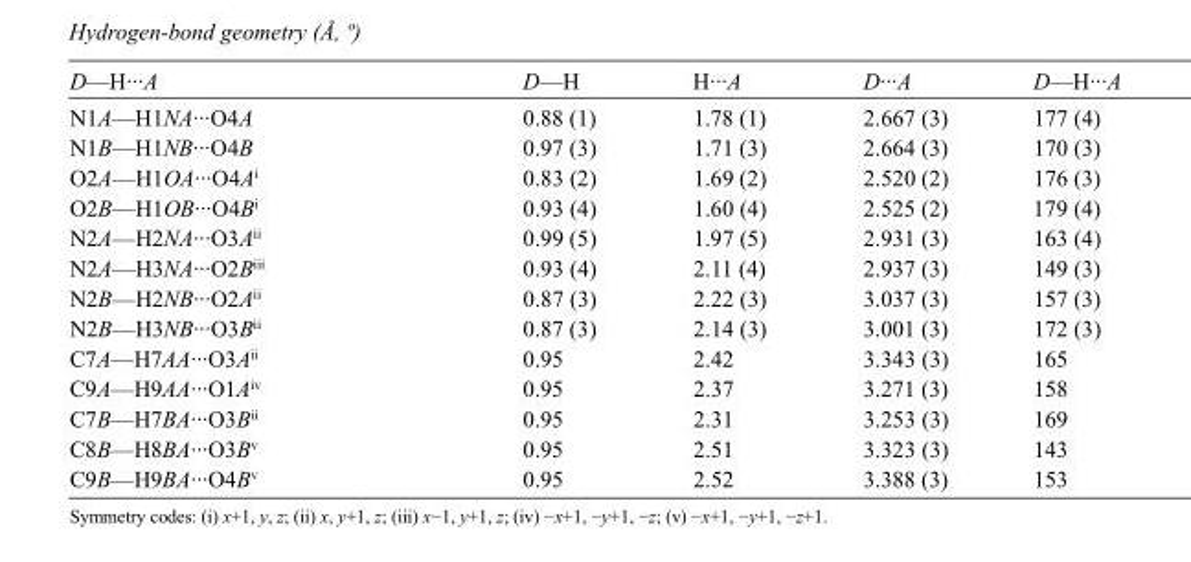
<table><tbody><tr><td>D—H···A</td><td>D—H</td><td>H···A</td><td>D···A</td><td>D—H···A</td></tr><tr><td>N1A—H1NA···O4A</td><td>0.88 (1)</td><td>1.78 (1)</td><td>2.667 (3)</td><td>177 (4)</td></tr><tr><td>N1B—H1NB···O4B</td><td>0.97 (3)</td><td>1.71 (3)</td><td>2.664 (3)</td><td>170 (3)</td></tr><tr><td>O2A—H1OA···O4A<sup>i</sup></td><td>0.83 (2)</td><td>1.69 (2)</td><td>2.520 (2)</td><td>176 (3)</td></tr><tr><td>O2B—H1OB···O4B<sup>i</sup></td><td>0.93 (4)</td><td>1.60 (4)</td><td>2.525 (2)</td><td>179 (4)</td></tr><tr><td>N2A—H2NA···O3A<sup>ii</sup></td><td>0.99 (5)</td><td>1.97 (5)</td><td>2.931 (3)</td><td>163 (4)</td></tr><tr><td>N2A—H3NA···O2B<sup>iii</sup></td><td>0.93 (4)</td><td>2.11 (4)</td><td>2.937 (3)</td><td>149 (3)</td></tr><tr><td>N2B—H2NB···O2A<sup>ii</sup></td><td>0.87 (3)</td><td>2.22 (3)</td><td>3.037 (3)</td><td>157 (3)</td></tr><tr><td>N2B—H3NB···O3B<sup>ii</sup></td><td>0.87 (3)</td><td>2.14 (3)</td><td>3.001 (3)</td><td>172 (3)</td></tr><tr><td>C7A—H7AA···O3A<sup>ii</sup></td><td>0.95</td><td>2.42</td><td>3.343 (3)</td><td>165</td></tr><tr><td>C9A—H9AA···O1A<sup>iv</sup></td><td>0.95</td><td>2.37</td><td>3.271 (3)</td><td>158</td></tr><tr><td>C7B—H7BA···O3B<sup>ii</sup></td><td>0.95</td><td>2.31</td><td>3.253 (3)</td><td>169</td></tr><tr><td>C8B—H8BA···O3B<sup>v</sup></td><td>0.95</td><td>2.51</td><td>3.323 (3)</td><td>143</td></tr><tr><td>C9B—H9BA···O4B<sup>v</sup></td><td>0.95</td><td>2.52</td><td>3.388 (3)</td><td>153</td></tr></tbody></table>